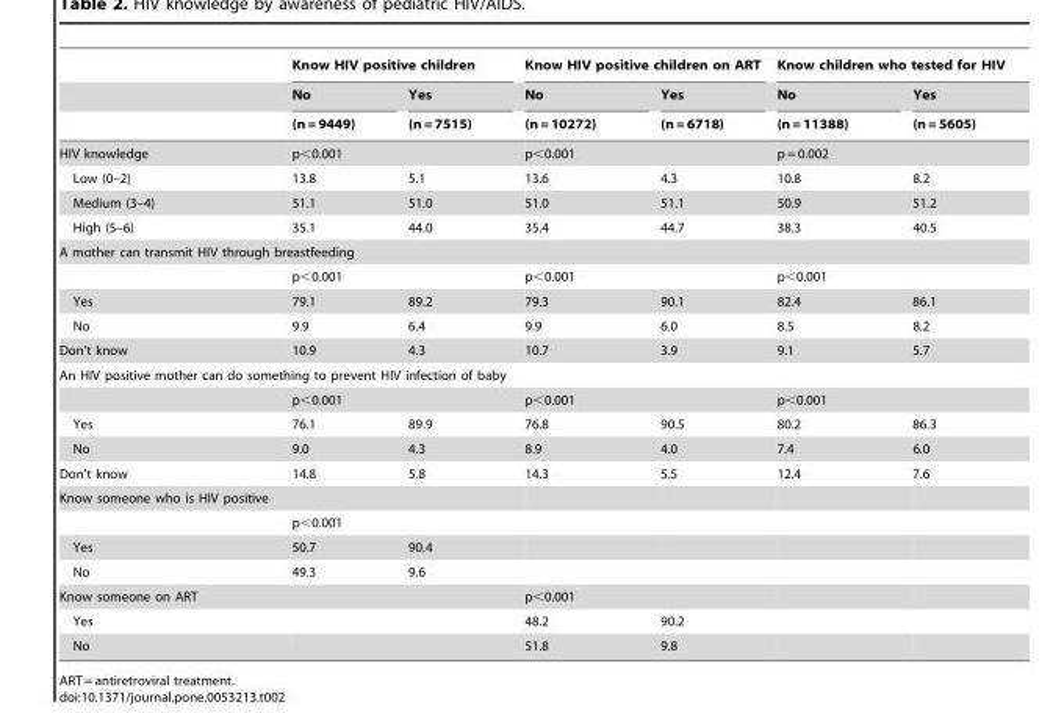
<table><thead><tr><td rowspan="3"></td><td colspan="2">Know HIV positive children</td><td colspan="2">Know HIV positive children on ART</td><td colspan="2">Know children who tested for HIV</td></tr><tr><td rowspan="2">No (n = 9449)</td><td rowspan="2">Yes (n = 7515)</td><td rowspan="2">No (n = 10272)</td><td rowspan="2">Yes (n = 6718)</td><td rowspan="2">No (n = 11388)</td><td rowspan="2">Yes (n = 5605)</td></tr><tr></tr></thead><tbody><tr><td>HIV knowledge</td><td colspan="2">p&lt;0.001</td><td colspan="2">p&lt;0.001</td><td colspan="2">p = 0.002</td></tr><tr><td>Low (0–2)</td><td>13.8</td><td>5.1</td><td>13.6</td><td>4.3</td><td>10.8</td><td>8.2</td></tr><tr><td>Medium (3–4)</td><td>51.1</td><td>51.0</td><td>51.0</td><td>51.1</td><td>50.9</td><td>51.2</td></tr><tr><td>High (5–6)</td><td>35.1</td><td>44.0</td><td>35.4</td><td>44.7</td><td>38.3</td><td>40.5</td></tr><tr><td colspan="7">A mother can transmit HIV through breastfeeding</td></tr><tr><td></td><td colspan="2">p&lt;0.001</td><td colspan="2">p&lt;0.001</td><td colspan="2">p&lt;0.001</td></tr><tr><td>Yes</td><td>79.1</td><td>89.2</td><td>79.3</td><td>90.1</td><td>82.4</td><td>86.1</td></tr><tr><td>No</td><td>9.9</td><td>6.4</td><td>9.9</td><td>6.0</td><td>8.5</td><td>8.2</td></tr><tr><td>Don’t know</td><td>10.9</td><td>4.3</td><td>10.7</td><td>3.9</td><td>9.1</td><td>5.7</td></tr><tr><td colspan="7">An HIV positive mother can do something to prevent HIV infection of baby</td></tr><tr><td></td><td colspan="2">p&lt;0.001</td><td colspan="2">p&lt;0.001</td><td colspan="2">p&lt;0.001</td></tr><tr><td>Yes</td><td>76.1</td><td>89.9</td><td>76.8</td><td>90.5</td><td>80.2</td><td>86.3</td></tr><tr><td>No</td><td>9.0</td><td>4.3</td><td>8.9</td><td>4.0</td><td>7.4</td><td>6.0</td></tr><tr><td>Don’t know</td><td>14.8</td><td>5.8</td><td>14.3</td><td>5.5</td><td>12.4</td><td>7.6</td></tr><tr><td colspan="7">Know someone who is HIV positive</td></tr><tr><td></td><td colspan="2">p&lt;0.001</td><td></td><td></td><td></td><td></td></tr><tr><td>Yes</td><td>50.7</td><td>90.4</td><td></td><td></td><td></td><td></td></tr><tr><td>No</td><td>49.3</td><td>9.6</td><td></td><td></td><td></td><td></td></tr><tr><td colspan="2">Know someone on ART</td><td></td><td colspan="2">p&lt;0.001</td><td></td><td></td></tr><tr><td>Yes</td><td></td><td></td><td>48.2</td><td>90.2</td><td></td><td></td></tr><tr><td>No</td><td></td><td></td><td>51.8</td><td>9.8</td><td></td><td></td></tr></tbody></table>